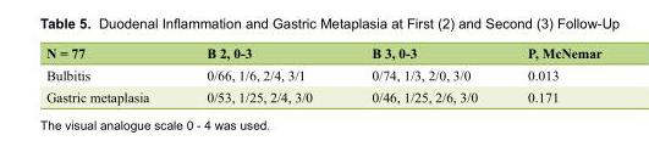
<table><thead><tr><td>N = 77</td><td>B 2, 0-3</td><td>B 3, 0-3</td><td>P, McNemar</td></tr></thead><tbody><tr><td>Bulbitis</td><td>0/66, 1/6, 2/4, 3/1</td><td>0/74, 1/3, 2/0, 3/0</td><td>0.013</td></tr><tr><td>Gastric metaplasia</td><td>0/53, 1/25, 2/4, 3/0</td><td>0/46, 1/25, 2/6, 3/0</td><td>0.171</td></tr></tbody></table>